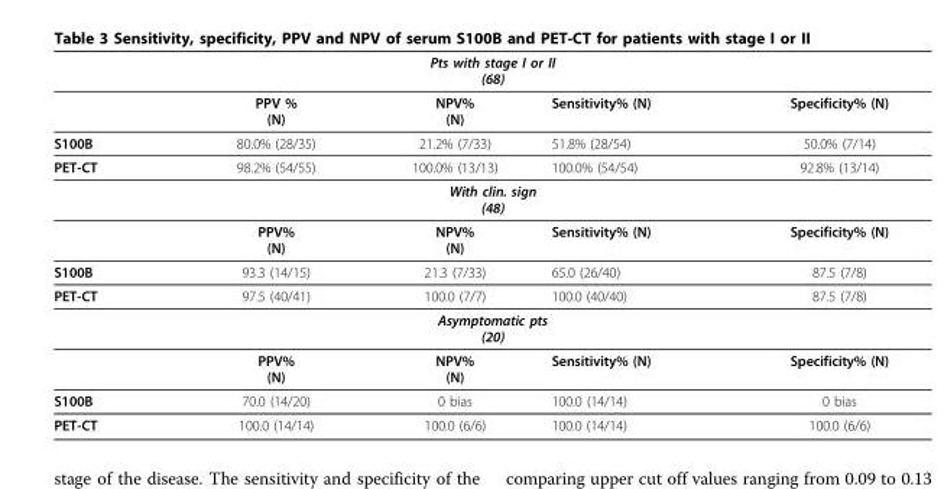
<table><thead><tr><td colspan="5">Pts with stage I or II (68)</td></tr><tr><td></td><td>PPV % (N)</td><td>NPV% (N)</td><td>Sensitivity% (N)</td><td>Specificity% (N)</td></tr></thead><tbody><tr><td>S100B</td><td>80.0% (28/35)</td><td>21.2% (7/33)</td><td>51.8% (28/54)</td><td>50.0% (7/14)</td></tr><tr><td>PET-CT</td><td>98.2% (54/55)</td><td>100.0% (13/13)</td><td>100.0% (54/54)</td><td>92.8% (13/14)</td></tr><tr><td colspan="5">With clin. sign (48)</td></tr><tr><td></td><td>PPV% (N)</td><td>NPV% (N)</td><td>Sensitivity% (N)</td><td>Specificity% (N)</td></tr><tr><td>S100B</td><td>93.3 (14/15)</td><td>21.3 (7/33)</td><td>65.0 (26/40)</td><td>87.5 (7/8)</td></tr><tr><td>PET-CT</td><td>97.5 (40/41)</td><td>100.0 (7/7)</td><td>100.0 (40/40)</td><td>87.5 (7/8)</td></tr><tr><td colspan="5">Asymptomatic pts (20)</td></tr><tr><td></td><td>PPV% (N)</td><td>NPV% (N)</td><td>Sensitivity% (N)</td><td>Specificity% (N)</td></tr><tr><td>S100B</td><td>70.0 (14/20)</td><td>0 bias</td><td>100.0 (14/14)</td><td>0 bias</td></tr><tr><td>PET-CT</td><td>100.0 (14/14)</td><td>100.0 (6/6)</td><td>100.0 (14/14)</td><td>100.0 (6/6)</td></tr></tbody></table>